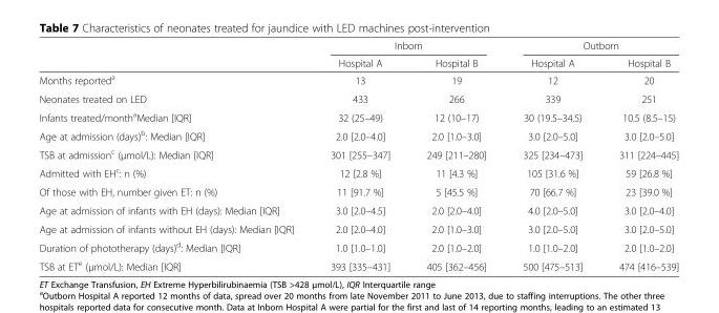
<table><thead><tr><td rowspan="2"></td><td colspan="2">Inborn</td><td colspan="2">Outborn</td></tr><tr><td>Hospital A</td><td>Hospital B</td><td>Hospital A</td><td>Hospital B</td></tr></thead><tbody><tr><td>Months reported<sup>a</sup></td><td>13</td><td>19</td><td>12</td><td>20</td></tr><tr><td>Neonates treated on LED</td><td>433</td><td>266</td><td>339</td><td>251</td></tr><tr><td>Infants treated/month<sup>a</sup>Median [IQR]</td><td>32 (25–49)</td><td>12 (10–17)</td><td>30 (19.5–34.5)</td><td>10.5 (8.5–15)</td></tr><tr><td>Age at admission (days)<sup>b</sup>: Median [IQR]</td><td>2.0 [2.0–4.0]</td><td>2.0 [1.0–3.0]</td><td>3.0 [2.0–5.0]</td><td>3.0 [2.0–5.0]</td></tr><tr><td>TSB at admission<sup>c</sup> (μmol/L): Median [IQR]</td><td>301 [255–347]</td><td>249 [211–280]</td><td>325 [234–473]</td><td>311 [224–445]</td></tr><tr><td>Admitted with EH<sup>c</sup>: n (%)</td><td>12 [2.8 %]</td><td>11 [4.3 %]</td><td>105 [31.6 %]</td><td>59 [26.8 %]</td></tr><tr><td>Of those with EH, number given ET: n (%)</td><td>11 [91.7 %]</td><td>5 [45.5 %]</td><td>70 [66.7 %]</td><td>23 [39.0 %]</td></tr><tr><td>Age at admission of infants with EH (days): Median [IQR]</td><td>3.0 [2.0–4.5]</td><td>2.0 [2.0–4.0]</td><td>4.0 [2.0–5.0]</td><td>3.0 [2.0–4.0]</td></tr><tr><td>Age at admission of infants without EH (days): Median [IQR]</td><td>2.0 [2.0–4.0]</td><td>2.0 [1.0–3.0]</td><td>3.0 [2.0–5.0]</td><td>3.0 [2.0–5.0]</td></tr><tr><td>Duration of phototherapy (days)<sup>d</sup>: Median [IQR]</td><td>1.0 [1.0–1.0]</td><td>2.0 [1.0–2.0]</td><td>1.0 [1.0–2.0]</td><td>2.0 [1.0–2.0]</td></tr><tr><td>TSB at ET<sup>e</sup> (μmol/L): Median [IQR]</td><td>393 [335–431]</td><td>405 [362–456]</td><td>500 [475–513]</td><td>474 [416–539]</td></tr></tbody></table>